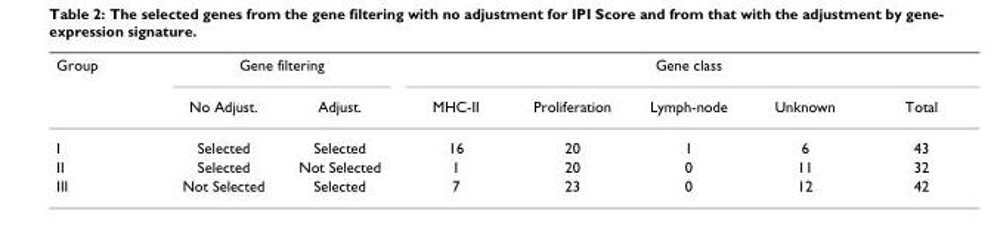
<table><thead><tr><td rowspan="2">Group</td><td colspan="2">Gene filtering</td><td colspan="5">Gene class</td></tr><tr><td>No Adjust.</td><td>Adjust.</td><td>MHC-II</td><td>Proliferation</td><td>Lymph-node</td><td>Unknown</td><td>Total</td></tr></thead><tbody><tr><td>I</td><td>Selected</td><td>Selected</td><td>16</td><td>20</td><td>1</td><td>6</td><td>43</td></tr><tr><td>II</td><td>Selected</td><td>Not Selected</td><td>1</td><td>20</td><td>0</td><td>11</td><td>32</td></tr><tr><td>III</td><td>Not Selected</td><td>Selected</td><td>7</td><td>23</td><td>0</td><td>12</td><td>42</td></tr></tbody></table>